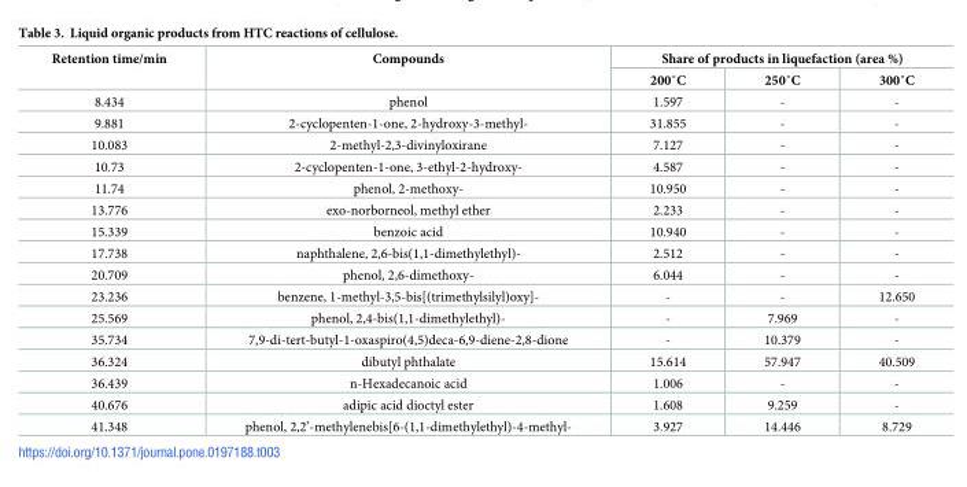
<table><thead><tr><td rowspan="2">Retention time/min</td><td rowspan="2">Compounds</td><td colspan="3">Share of products in liquefaction (area %)</td></tr><tr><td>200˚C</td><td>250˚C</td><td>300˚C</td></tr></thead><tbody><tr><td>8.434</td><td>phenol</td><td>1.597</td><td>-</td><td>-</td></tr><tr><td>9.881</td><td>2-cyclopenten-1-one, 2-hydroxy-3-methyl-</td><td>31.855</td><td>-</td><td>-</td></tr><tr><td>10.083</td><td>2-methyl-2,3-divinyloxirane</td><td>7.127</td><td>-</td><td>-</td></tr><tr><td>10.73</td><td>2-cyclopenten-1-one, 3-ethyl-2-hydroxy-</td><td>4.587</td><td>-</td><td>-</td></tr><tr><td>11.74</td><td>phenol, 2-methoxy-</td><td>10.950</td><td>-</td><td>-</td></tr><tr><td>13.776</td><td>exo-norborneol, methyl ether</td><td>2.233</td><td>-</td><td>-</td></tr><tr><td>15.339</td><td>benzoic acid</td><td>10.940</td><td>-</td><td>-</td></tr><tr><td>17.738</td><td>naphthalene, 2,6-bis(1,1-dimethylethyl)-</td><td>2.512</td><td>-</td><td>-</td></tr><tr><td>20.709</td><td>phenol, 2,6-dimethoxy-</td><td>6.044</td><td>-</td><td>-</td></tr><tr><td>23.236</td><td>benzene, 1-methyl-3,5-bis[(trimethylsilyl)oxy]-</td><td>-</td><td>-</td><td>12.650</td></tr><tr><td>25.569</td><td>phenol, 2,4-bis(1,1-dimethylethyl)-</td><td>-</td><td>7.969</td><td>-</td></tr><tr><td>35.734</td><td>7,9-di-tert-butyl-1-oxaspiro(4,5)deca-6,9-diene-2,8-dione</td><td>-</td><td>10.379</td><td>-</td></tr><tr><td>36.324</td><td>dibutyl phthalate</td><td>15.614</td><td>57.947</td><td>40.509</td></tr><tr><td>36.439</td><td>n-Hexadecanoic acid</td><td>1.006</td><td>-</td><td>-</td></tr><tr><td>40.676</td><td>adipic acid dioctyl ester</td><td>1.608</td><td>9.259</td><td>-</td></tr><tr><td>41.348</td><td>phenol, 2,2’-methylenebis[6-(1,1-dimethylethyl)-4-methyl-</td><td>3.927</td><td>14.446</td><td>8.729</td></tr></tbody></table>